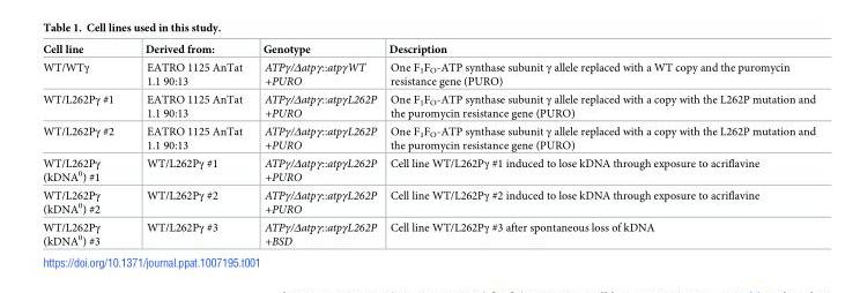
<table><thead><tr><td>Cell line</td><td>Derived from:</td><td>Genotype</td><td>Description</td></tr></thead><tbody><tr><td>WT/WTγ</td><td>EATRO 1125 AnTat 1.1 90:13</td><td>ATPγ/Δatpγ::atpγWT +PURO</td><td>One F<sub>1</sub>F<sub>O</sub>-ATP synthase subunit γ allele replaced with a WT copy and the puromycin resistance gene (PURO)</td></tr><tr><td>WT/L262Pγ #1</td><td>EATRO 1125 AnTat 1.1 90:13</td><td>ATPγ/Δatpγ::atpγL262P +PURO</td><td>One F<sub>1</sub>F<sub>O</sub>-ATP synthase subunit γ allele replaced with a copy with the L262P mutation and the puromycin resistance gene (PURO)</td></tr><tr><td>WT/L262Pγ #2</td><td>EATRO 1125 AnTat 1.1 90:13</td><td>ATPγ/Δatpγ::atpγL262P +PURO</td><td>One F<sub>1</sub>F<sub>O</sub>-ATP synthase subunit γ allele replaced with a copy with the L262P mutation and the puromycin resistance gene (PURO)</td></tr><tr><td>WT/L262Pγ (kDNA<sup>0</sup>) #1</td><td>WT/L262Pγ #1</td><td>ATPγ/Δatpγ::atpγL262P +PURO</td><td>Cell line WT/L262Pγ #1 induced to lose kDNA through exposure to acriflavine</td></tr><tr><td>WT/L262Pγ (kDNA<sup>0</sup>) #2</td><td>WT/L262Pγ #2</td><td>ATPγ/Δatpγ::atpγL262P +PURO</td><td>Cell line WT/L262Pγ #2 induced to lose kDNA through exposure to acriflavine</td></tr><tr><td>WT/L262Pγ (kDNA<sup>0</sup>) #3</td><td>WT/L262Pγ #3</td><td>ATPγ/Δatpγ::atpγL262P +BSD</td><td>Cell line WT/L262Pγ #3 after spontaneous loss of kDNA</td></tr></tbody></table>